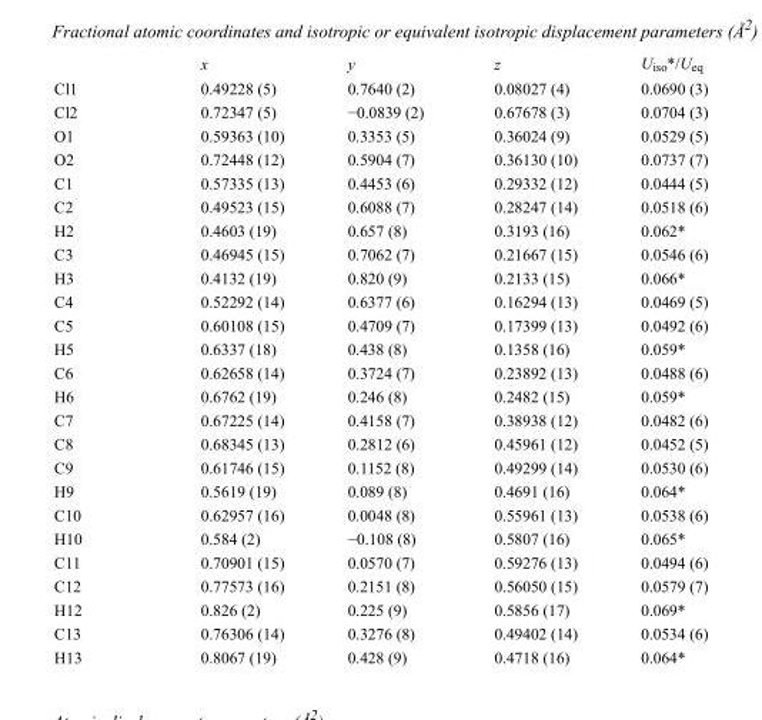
<table><thead><tr><td></td><td>x</td><td>y</td><td>z</td><td>U<sub>iso</sub>*/U<sub>eq</sub></td></tr></thead><tbody><tr><td>Cl1</td><td>0.49228 (5)</td><td>0.7640 (2)</td><td>0.08027 (4)</td><td>0.0690 (3)</td></tr><tr><td>Cl2</td><td>0.72347 (5)</td><td>−0.0839 (2)</td><td>0.67678 (3)</td><td>0.0704 (3)</td></tr><tr><td>O1</td><td>0.59363 (10)</td><td>0.3353 (5)</td><td>0.36024 (9)</td><td>0.0529 (5)</td></tr><tr><td>O2</td><td>0.72448 (12)</td><td>0.5904 (7)</td><td>0.36130 (10)</td><td>0.0737 (7)</td></tr><tr><td>C1</td><td>0.57335 (13)</td><td>0.4453 (6)</td><td>0.29332 (12)</td><td>0.0444 (5)</td></tr><tr><td>C2</td><td>0.49523 (15)</td><td>0.6088 (7)</td><td>0.28247 (14)</td><td>0.0518 (6)</td></tr><tr><td>H2</td><td>0.4603 (19)</td><td>0.657 (8)</td><td>0.3193 (16)</td><td>0.062*</td></tr><tr><td>C3</td><td>0.46945 (15)</td><td>0.7062 (7)</td><td>0.21667 (15)</td><td>0.0546 (6)</td></tr><tr><td>H3</td><td>0.4132 (19)</td><td>0.820 (9)</td><td>0.2133 (15)</td><td>0.066*</td></tr><tr><td>C4</td><td>0.52292 (14)</td><td>0.6377 (6)</td><td>0.16294 (13)</td><td>0.0469 (5)</td></tr><tr><td>C5</td><td>0.60108 (15)</td><td>0.4709 (7)</td><td>0.17399 (13)</td><td>0.0492 (6)</td></tr><tr><td>H5</td><td>0.6337 (18)</td><td>0.438 (8)</td><td>0.1358 (16)</td><td>0.059*</td></tr><tr><td>C6</td><td>0.62658 (14)</td><td>0.3724 (7)</td><td>0.23892 (13)</td><td>0.0488 (6)</td></tr><tr><td>H6</td><td>0.6762 (19)</td><td>0.246 (8)</td><td>0.2482 (15)</td><td>0.059*</td></tr><tr><td>C7</td><td>0.67225 (14)</td><td>0.4158 (7)</td><td>0.38938 (12)</td><td>0.0482 (6)</td></tr><tr><td>C8</td><td>0.68345 (13)</td><td>0.2812 (6)</td><td>0.45961 (12)</td><td>0.0452 (5)</td></tr><tr><td>C9</td><td>0.61746 (15)</td><td>0.1152 (8)</td><td>0.49299 (14)</td><td>0.0530 (6)</td></tr><tr><td>H9</td><td>0.5619 (19)</td><td>0.089 (8)</td><td>0.4691 (16)</td><td>0.064*</td></tr><tr><td>C10</td><td>0.62957 (16)</td><td>0.0048 (8)</td><td>0.55961 (13)</td><td>0.0538 (6)</td></tr><tr><td>H10</td><td>0.584 (2)</td><td>−0.108 (8)</td><td>0.5807 (16)</td><td>0.065*</td></tr><tr><td>C11</td><td>0.70901 (15)</td><td>0.0570 (7)</td><td>0.59276 (13)</td><td>0.0494 (6)</td></tr><tr><td>C12</td><td>0.77573 (16)</td><td>0.2151 (8)</td><td>0.56050 (15)</td><td>0.0579 (7)</td></tr><tr><td>H12</td><td>0.826 (2)</td><td>0.225 (9)</td><td>0.5856 (17)</td><td>0.069*</td></tr><tr><td>C13</td><td>0.76306 (14)</td><td>0.3276 (8)</td><td>0.49402 (14)</td><td>0.0534 (6)</td></tr><tr><td>H13</td><td>0.8067 (19)</td><td>0.428 (9)</td><td>0.4718 (16)</td><td>0.064*</td></tr></tbody></table>